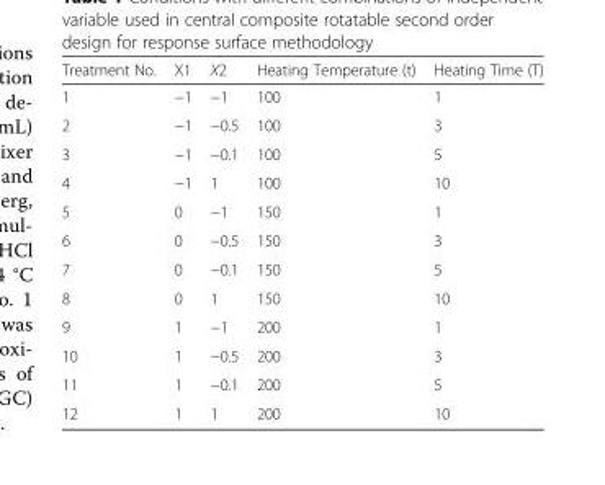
<table><thead><tr><td>Treatment No.</td><td>X1</td><td>X2</td><td>Heating Temperature (t)</td><td>Heating Time (T)</td></tr></thead><tbody><tr><td>1</td><td>−1</td><td>−1</td><td>100</td><td>1</td></tr><tr><td>2</td><td>−1</td><td>−0.5</td><td>100</td><td>3</td></tr><tr><td>3</td><td>−1</td><td>−0.1</td><td>100</td><td>5</td></tr><tr><td>4</td><td>−1</td><td>1</td><td>100</td><td>10</td></tr><tr><td>5</td><td>0</td><td>−1</td><td>150</td><td>1</td></tr><tr><td>6</td><td>0</td><td>−0.5</td><td>150</td><td>3</td></tr><tr><td>7</td><td>0</td><td>−0.1</td><td>150</td><td>5</td></tr><tr><td>8</td><td>0</td><td>1</td><td>150</td><td>10</td></tr><tr><td>9</td><td>1</td><td>−1</td><td>200</td><td>1</td></tr><tr><td>10</td><td>1</td><td>−0.5</td><td>200</td><td>3</td></tr><tr><td>11</td><td>1</td><td>−0.1</td><td>200</td><td>5</td></tr><tr><td>12</td><td>1</td><td>1</td><td>200</td><td>10</td></tr></tbody></table>